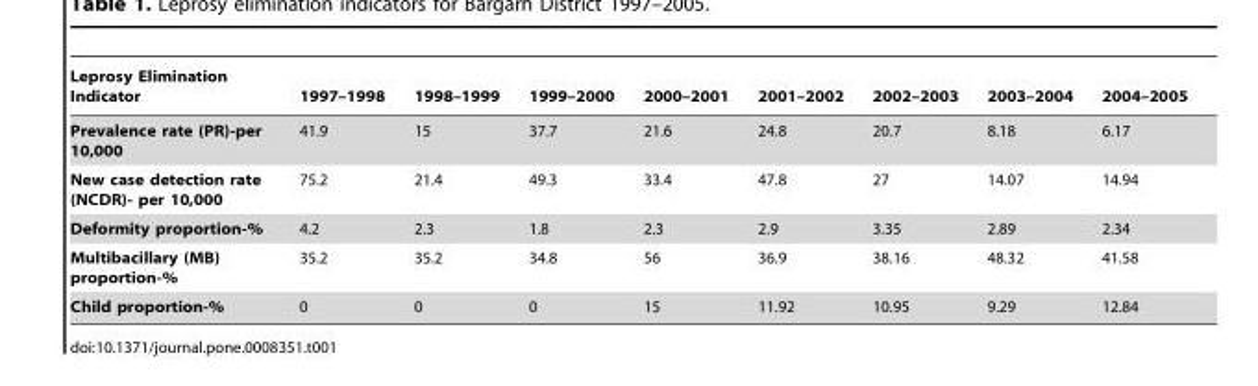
<table><thead><tr><td>Leprosy Elimination Indicator</td><td>1997–1998</td><td>1998–1999</td><td>1999–2000</td><td>2000–2001</td><td>2001–2002</td><td>2002–2003</td><td>2003–2004</td><td>2004–2005</td></tr></thead><tbody><tr><td>Prevalence rate (PR)-per 10,000</td><td>41.9</td><td>15</td><td>37.7</td><td>21.6</td><td>24.8</td><td>20.7</td><td>8.18</td><td>6.17</td></tr><tr><td>New case detection rate (NCDR)- per 10,000</td><td>75.2</td><td>21.4</td><td>49.3</td><td>33.4</td><td>47.8</td><td>27</td><td>14.07</td><td>14.94</td></tr><tr><td>Deformity proportion-%</td><td>4.2</td><td>2.3</td><td>1.8</td><td>2.3</td><td>2.9</td><td>3.35</td><td>2.89</td><td>2.34</td></tr><tr><td>Multibacillary (MB) proportion-%</td><td>35.2</td><td>35.2</td><td>34.8</td><td>56</td><td>36.9</td><td>38.16</td><td>48.32</td><td>41.58</td></tr><tr><td>Child proportion-%</td><td>0</td><td>0</td><td>0</td><td>15</td><td>11.92</td><td>10.95</td><td>9.29</td><td>12.84</td></tr></tbody></table>